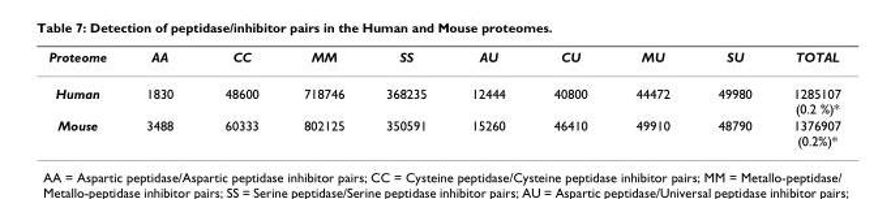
<table><thead><tr><td>Proteome</td><td>AA</td><td>CC</td><td>MM</td><td>SS</td><td>AU</td><td>CU</td><td>MU</td><td>SU</td><td>TOTAL</td></tr></thead><tbody><tr><td>Human</td><td>1830</td><td>48600</td><td>718746</td><td>368235</td><td>12444</td><td>40800</td><td>44472</td><td>49980</td><td>1285107 (0.2 %)*</td></tr><tr><td>Mouse</td><td>3488</td><td>60333</td><td>802125</td><td>350591</td><td>15260</td><td>46410</td><td>49910</td><td>48790</td><td>1376907 (0.2%)*</td></tr></tbody></table>